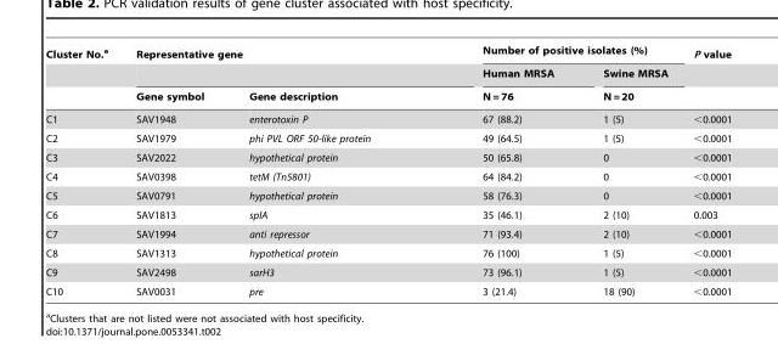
<table><thead><tr><td rowspan="3">Cluster No.<sup>a</sup></td><td colspan="2">Representative gene</td><td colspan="2">Number of positive isolates (%)</td><td rowspan="3">P value</td></tr><tr><td rowspan="2">Gene symbol</td><td rowspan="2">Gene description</td><td rowspan="2">Human MRSA N = 76</td><td rowspan="2">Swine MRSA N = 20</td></tr><tr></tr></thead><tbody><tr><td>C1</td><td>SAV1948</td><td>enterotoxin P</td><td>67 (88.2)</td><td>1 (5)</td><td>&lt;0.0001</td></tr><tr><td>C2</td><td>SAV1979</td><td>phi PVL ORF 50-like protein</td><td>49 (64.5)</td><td>1 (5)</td><td>&lt;0.0001</td></tr><tr><td>C3</td><td>SAV2022</td><td>hypothetical protein</td><td>50 (65.8)</td><td>0</td><td>&lt;0.0001</td></tr><tr><td>C4</td><td>SAV0398</td><td>tetM (Tn5801)</td><td>64 (84.2)</td><td>0</td><td>&lt;0.0001</td></tr><tr><td>C5</td><td>SAV0791</td><td>hypothetical protein</td><td>58 (76.3)</td><td>0</td><td>&lt;0.0001</td></tr><tr><td>C6</td><td>SAV1813</td><td>splA</td><td>35 (46.1)</td><td>2 (10)</td><td>0.003</td></tr><tr><td>C7</td><td>SAV1994</td><td>anti repressor</td><td>71 (93.4)</td><td>2 (10)</td><td>&lt;0.0001</td></tr><tr><td>C8</td><td>SAV1313</td><td>hypothetical protein</td><td>76 (100)</td><td>1 (5)</td><td>&lt;0.0001</td></tr><tr><td>C9</td><td>SAV2498</td><td>sarH3</td><td>73 (96.1)</td><td>1 (5)</td><td>&lt;0.0001</td></tr><tr><td>C10</td><td>SAV0031</td><td>pre</td><td>3 (21.4)</td><td>18 (90)</td><td>&lt;0.0001</td></tr></tbody></table>